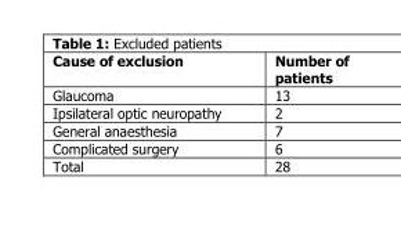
<table><thead><tr><td>Cause of exclusion</td><td>Number of patients</td></tr></thead><tbody><tr><td>Glaucoma</td><td>13</td></tr><tr><td>Ipsilateral optic neuropathy</td><td>2</td></tr><tr><td>General anaesthesia</td><td>7</td></tr><tr><td>Complicated surgery</td><td>6</td></tr><tr><td>Total</td><td>28</td></tr></tbody></table>